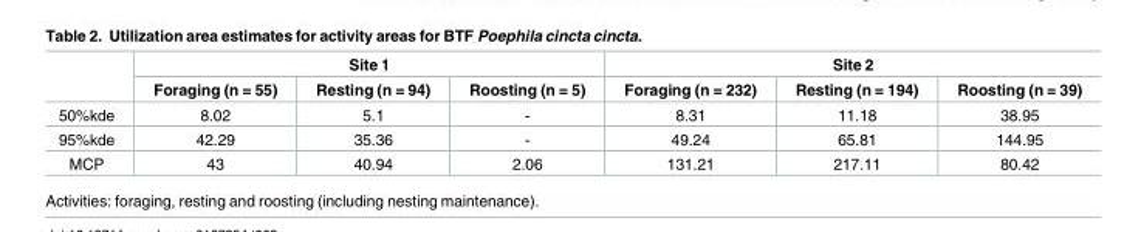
<table><thead><tr><td rowspan="2"></td><td colspan="3">Site 1</td><td colspan="3">Site 2</td></tr><tr><td>Foraging (n = 55)</td><td>Resting (n = 94)</td><td>Roosting (n = 5)</td><td>Foraging (n = 232)</td><td>Resting (n = 194)</td><td>Roosting (n = 39)</td></tr></thead><tbody><tr><td>50%kde</td><td>8.02</td><td>5.1</td><td>-</td><td>8.31</td><td>11.18</td><td>38.95</td></tr><tr><td>95%kde</td><td>42.29</td><td>35.36</td><td>-</td><td>49.24</td><td>65.81</td><td>144.95</td></tr><tr><td>MCP</td><td>43</td><td>40.94</td><td>2.06</td><td>131.21</td><td>217.11</td><td>80.42</td></tr></tbody></table>